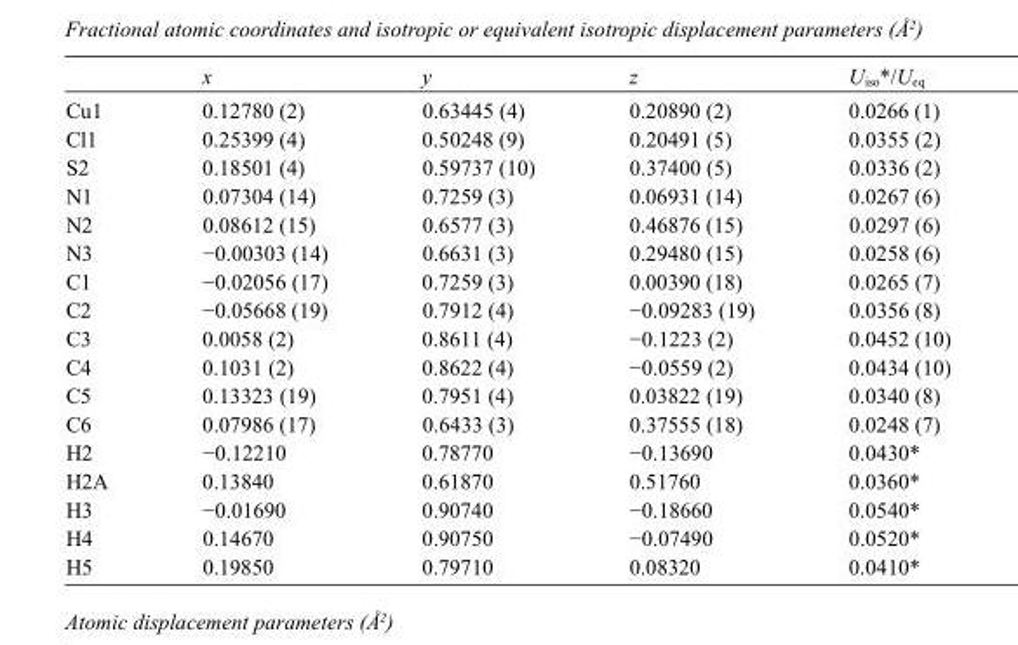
<table><thead><tr><td></td><td>x</td><td>y</td><td>z</td><td>U<sub>iso</sub>*/U<sub>eq</sub></td></tr></thead><tbody><tr><td>Cu1</td><td>0.12780 (2)</td><td>0.63445 (4)</td><td>0.20890 (2)</td><td>0.0266 (1)</td></tr><tr><td>Cl1</td><td>0.25399 (4)</td><td>0.50248 (9)</td><td>0.20491 (5)</td><td>0.0355 (2)</td></tr><tr><td>S2</td><td>0.18501 (4)</td><td>0.59737 (10)</td><td>0.37400 (5)</td><td>0.0336 (2)</td></tr><tr><td>N1</td><td>0.07304 (14)</td><td>0.7259 (3)</td><td>0.06931 (14)</td><td>0.0267 (6)</td></tr><tr><td>N2</td><td>0.08612 (15)</td><td>0.6577 (3)</td><td>0.46876 (15)</td><td>0.0297 (6)</td></tr><tr><td>N3</td><td>−0.00303 (14)</td><td>0.6631 (3)</td><td>0.29480 (15)</td><td>0.0258 (6)</td></tr><tr><td>C1</td><td>−0.02056 (17)</td><td>0.7259 (3)</td><td>0.00390 (18)</td><td>0.0265 (7)</td></tr><tr><td>C2</td><td>−0.05668 (19)</td><td>0.7912 (4)</td><td>−0.09283 (19)</td><td>0.0356 (8)</td></tr><tr><td>C3</td><td>0.0058 (2)</td><td>0.8611 (4)</td><td>−0.1223 (2)</td><td>0.0452 (10)</td></tr><tr><td>C4</td><td>0.1031 (2)</td><td>0.8622 (4)</td><td>−0.0559 (2)</td><td>0.0434 (10)</td></tr><tr><td>C5</td><td>0.13323 (19)</td><td>0.7951 (4)</td><td>0.03822 (19)</td><td>0.0340 (8)</td></tr><tr><td>C6</td><td>0.07986 (17)</td><td>0.6433 (3)</td><td>0.37555 (18)</td><td>0.0248 (7)</td></tr><tr><td>H2</td><td>−0.12210</td><td>0.78770</td><td>−0.13690</td><td>0.0430*</td></tr><tr><td>H2A</td><td>0.13840</td><td>0.61870</td><td>0.51760</td><td>0.0360*</td></tr><tr><td>H3</td><td>−0.01690</td><td>0.90740</td><td>−0.18660</td><td>0.0540*</td></tr><tr><td>H4</td><td>0.14670</td><td>0.90750</td><td>−0.07490</td><td>0.0520*</td></tr><tr><td>H5</td><td>0.19850</td><td>0.79710</td><td>0.08320</td><td>0.0410*</td></tr></tbody></table>